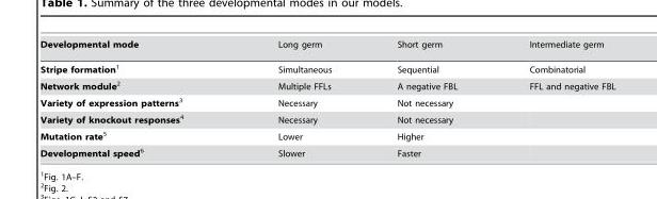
<table><tbody><tr><td>Developmental mode</td><td>Long germ</td><td>Short germ</td><td>Intermediate germ</td></tr><tr><td>Stripe formation1</td><td>Simultaneous</td><td>Sequential</td><td>Combinatorial</td></tr><tr><td>Network module2</td><td>Multiple FFLs</td><td>A negative FBL</td><td>FFL and negative FBL</td></tr><tr><td>Variety of expression patterns3</td><td>Necessary</td><td>Not necessary</td><td></td></tr><tr><td>Variety of knockout responses4</td><td>Necessary</td><td>Not necessary</td><td></td></tr><tr><td>Mutation rate5</td><td>Lower</td><td>Higher</td><td></td></tr><tr><td>Developmental speed6</td><td>Slower</td><td>Faster</td><td></td></tr></tbody></table>